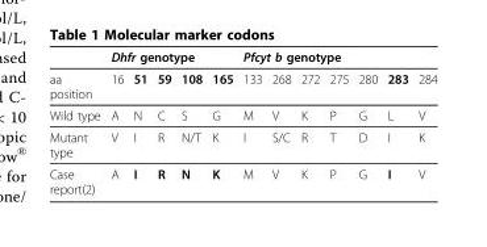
<table><thead><tr><td rowspan="2">aa position</td><td colspan="5">Dhfr genotype</td><td colspan="7">Pfcyt b genotype</td></tr><tr><td>16</td><td>51</td><td>59</td><td>108</td><td>165</td><td>133</td><td>268</td><td>272</td><td>275</td><td>280</td><td>283</td><td>284</td></tr></thead><tbody><tr><td>Wild type</td><td>A</td><td>N</td><td>C</td><td>S</td><td>G</td><td>M</td><td>V</td><td>K</td><td>P</td><td>G</td><td>L</td><td>V</td></tr><tr><td>Mutant type</td><td>V</td><td>I</td><td>R</td><td>N/T</td><td>K</td><td>I</td><td>S/C</td><td>R</td><td>T</td><td>D</td><td>I</td><td>K</td></tr><tr><td>Case report(2)</td><td>A</td><td>I</td><td>R</td><td>N</td><td>K</td><td>M</td><td>V</td><td>K</td><td>P</td><td>G</td><td>I</td><td>V</td></tr></tbody></table>